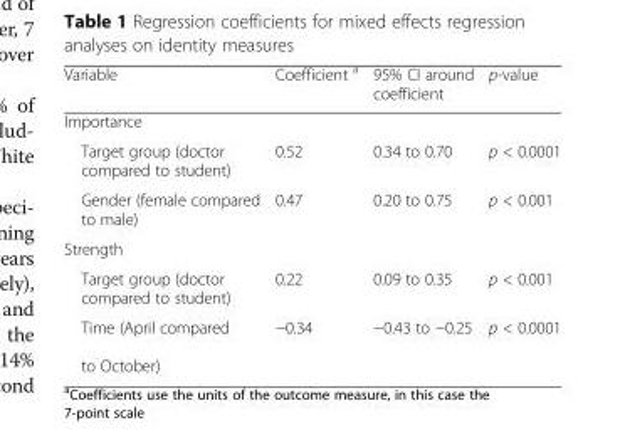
<table><thead><tr><td>Variable</td><td>Coefficient <sup>a</sup></td><td>95% CI around coefficient</td><td>p-value</td></tr></thead><tbody><tr><td colspan="4">Importance</td></tr><tr><td>Target group (doctor compared to student)</td><td>0.52</td><td>0.34 to 0.70</td><td>p &lt; 0.0001</td></tr><tr><td>Gender (female compared to male)</td><td>0.47</td><td>0.20 to 0.75</td><td>p &lt; 0.001</td></tr><tr><td colspan="4">Strength</td></tr><tr><td>Target group (doctor compared to student)</td><td>0.22</td><td>0.09 to 0.35</td><td>p &lt; 0.001</td></tr><tr><td>Time (April compared to October)</td><td>−0.34</td><td>−0.43 to −0.25</td><td>p &lt; 0.0001</td></tr></tbody></table>